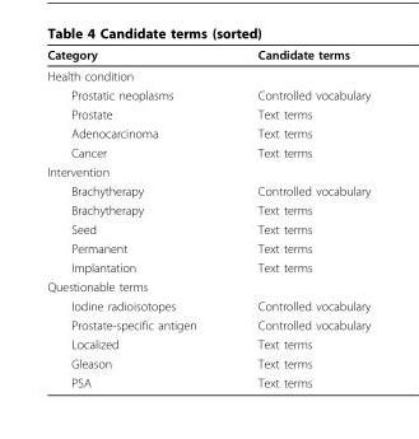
<table><thead><tr><td>Category</td><td>Candidate terms</td></tr></thead><tbody><tr><td colspan="2">Health condition</td></tr><tr><td>Prostatic neoplasms</td><td>Controlled vocabulary</td></tr><tr><td>Prostate</td><td>Text terms</td></tr><tr><td>Adenocarcinoma</td><td>Text terms</td></tr><tr><td>Cancer</td><td>Text terms</td></tr><tr><td colspan="2">Intervention</td></tr><tr><td>Brachytherapy</td><td>Controlled vocabulary</td></tr><tr><td>Brachytherapy</td><td>Text terms</td></tr><tr><td>Seed</td><td>Text terms</td></tr><tr><td>Permanent</td><td>Text terms</td></tr><tr><td>Implantation</td><td>Text terms</td></tr><tr><td colspan="2">Questionable terms</td></tr><tr><td>Iodine radioisotopes</td><td>Controlled vocabulary</td></tr><tr><td>Prostate-specific antigen</td><td>Controlled vocabulary</td></tr><tr><td>Localized</td><td>Text terms</td></tr><tr><td>Gleason</td><td>Text terms</td></tr><tr><td>PSA</td><td>Text terms</td></tr></tbody></table>